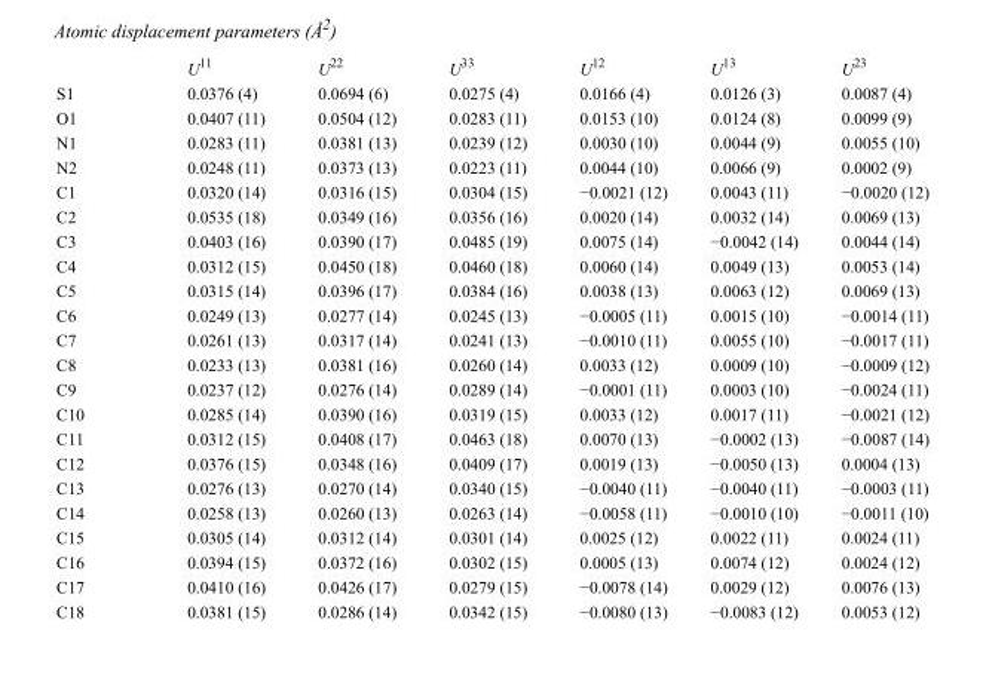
<table><thead><tr><td></td><td>U<sup>11</sup></td><td>U<sup>22</sup></td><td>U<sup>33</sup></td><td>U<sup>12</sup></td><td>U<sup>13</sup></td><td>U<sup>23</sup></td></tr></thead><tbody><tr><td>S1</td><td>0.0376 (4)</td><td>0.0694 (6)</td><td>0.0275 (4)</td><td>0.0166 (4)</td><td>0.0126 (3)</td><td>0.0087 (4)</td></tr><tr><td>O1</td><td>0.0407 (11)</td><td>0.0504 (12)</td><td>0.0283 (11)</td><td>0.0153 (10)</td><td>0.0124 (8)</td><td>0.0099 (9)</td></tr><tr><td>N1</td><td>0.0283 (11)</td><td>0.0381 (13)</td><td>0.0239 (12)</td><td>0.0030 (10)</td><td>0.0044 (9)</td><td>0.0055 (10)</td></tr><tr><td>N2</td><td>0.0248 (11)</td><td>0.0373 (13)</td><td>0.0223 (11)</td><td>0.0044 (10)</td><td>0.0066 (9)</td><td>0.0002 (9)</td></tr><tr><td>C1</td><td>0.0320 (14)</td><td>0.0316 (15)</td><td>0.0304 (15)</td><td>−0.0021 (12)</td><td>0.0043 (11)</td><td>−0.0020 (12)</td></tr><tr><td>C2</td><td>0.0535 (18)</td><td>0.0349 (16)</td><td>0.0356 (16)</td><td>0.0020 (14)</td><td>0.0032 (14)</td><td>0.0069 (13)</td></tr><tr><td>C3</td><td>0.0403 (16)</td><td>0.0390 (17)</td><td>0.0485 (19)</td><td>0.0075 (14)</td><td>−0.0042 (14)</td><td>0.0044 (14)</td></tr><tr><td>C4</td><td>0.0312 (15)</td><td>0.0450 (18)</td><td>0.0460 (18)</td><td>0.0060 (14)</td><td>0.0049 (13)</td><td>0.0053 (14)</td></tr><tr><td>C5</td><td>0.0315 (14)</td><td>0.0396 (17)</td><td>0.0384 (16)</td><td>0.0038 (13)</td><td>0.0063 (12)</td><td>0.0069 (13)</td></tr><tr><td>C6</td><td>0.0249 (13)</td><td>0.0277 (14)</td><td>0.0245 (13)</td><td>−0.0005 (11)</td><td>0.0015 (10)</td><td>−0.0014 (11)</td></tr><tr><td>C7</td><td>0.0261 (13)</td><td>0.0317 (14)</td><td>0.0241 (13)</td><td>−0.0010 (11)</td><td>0.0055 (10)</td><td>−0.0017 (11)</td></tr><tr><td>C8</td><td>0.0233 (13)</td><td>0.0381 (16)</td><td>0.0260 (14)</td><td>0.0033 (12)</td><td>0.0009 (10)</td><td>−0.0009 (12)</td></tr><tr><td>C9</td><td>0.0237 (12)</td><td>0.0276 (14)</td><td>0.0289 (14)</td><td>−0.0001 (11)</td><td>0.0003 (10)</td><td>−0.0024 (11)</td></tr><tr><td>C10</td><td>0.0285 (14)</td><td>0.0390 (16)</td><td>0.0319 (15)</td><td>0.0033 (12)</td><td>0.0017 (11)</td><td>−0.0021 (12)</td></tr><tr><td>C11</td><td>0.0312 (15)</td><td>0.0408 (17)</td><td>0.0463 (18)</td><td>0.0070 (13)</td><td>−0.0002 (13)</td><td>−0.0087 (14)</td></tr><tr><td>C12</td><td>0.0376 (15)</td><td>0.0348 (16)</td><td>0.0409 (17)</td><td>0.0019 (13)</td><td>−0.0050 (13)</td><td>0.0004 (13)</td></tr><tr><td>C13</td><td>0.0276 (13)</td><td>0.0270 (14)</td><td>0.0340 (15)</td><td>−0.0040 (11)</td><td>−0.0040 (11)</td><td>−0.0003 (11)</td></tr><tr><td>C14</td><td>0.0258 (13)</td><td>0.0260 (13)</td><td>0.0263 (14)</td><td>−0.0058 (11)</td><td>−0.0010 (10)</td><td>−0.0011 (10)</td></tr><tr><td>C15</td><td>0.0305 (14)</td><td>0.0312 (14)</td><td>0.0301 (14)</td><td>0.0025 (12)</td><td>0.0022 (11)</td><td>0.0024 (11)</td></tr><tr><td>C16</td><td>0.0394 (15)</td><td>0.0372 (16)</td><td>0.0302 (15)</td><td>0.0005 (13)</td><td>0.0074 (12)</td><td>0.0024 (12)</td></tr><tr><td>C17</td><td>0.0410 (16)</td><td>0.0426 (17)</td><td>0.0279 (15)</td><td>−0.0078 (14)</td><td>0.0029 (12)</td><td>0.0076 (13)</td></tr><tr><td>C18</td><td>0.0381 (15)</td><td>0.0286 (14)</td><td>0.0342 (15)</td><td>−0.0080 (13)</td><td>−0.0083 (12)</td><td>0.0053 (12)</td></tr></tbody></table>